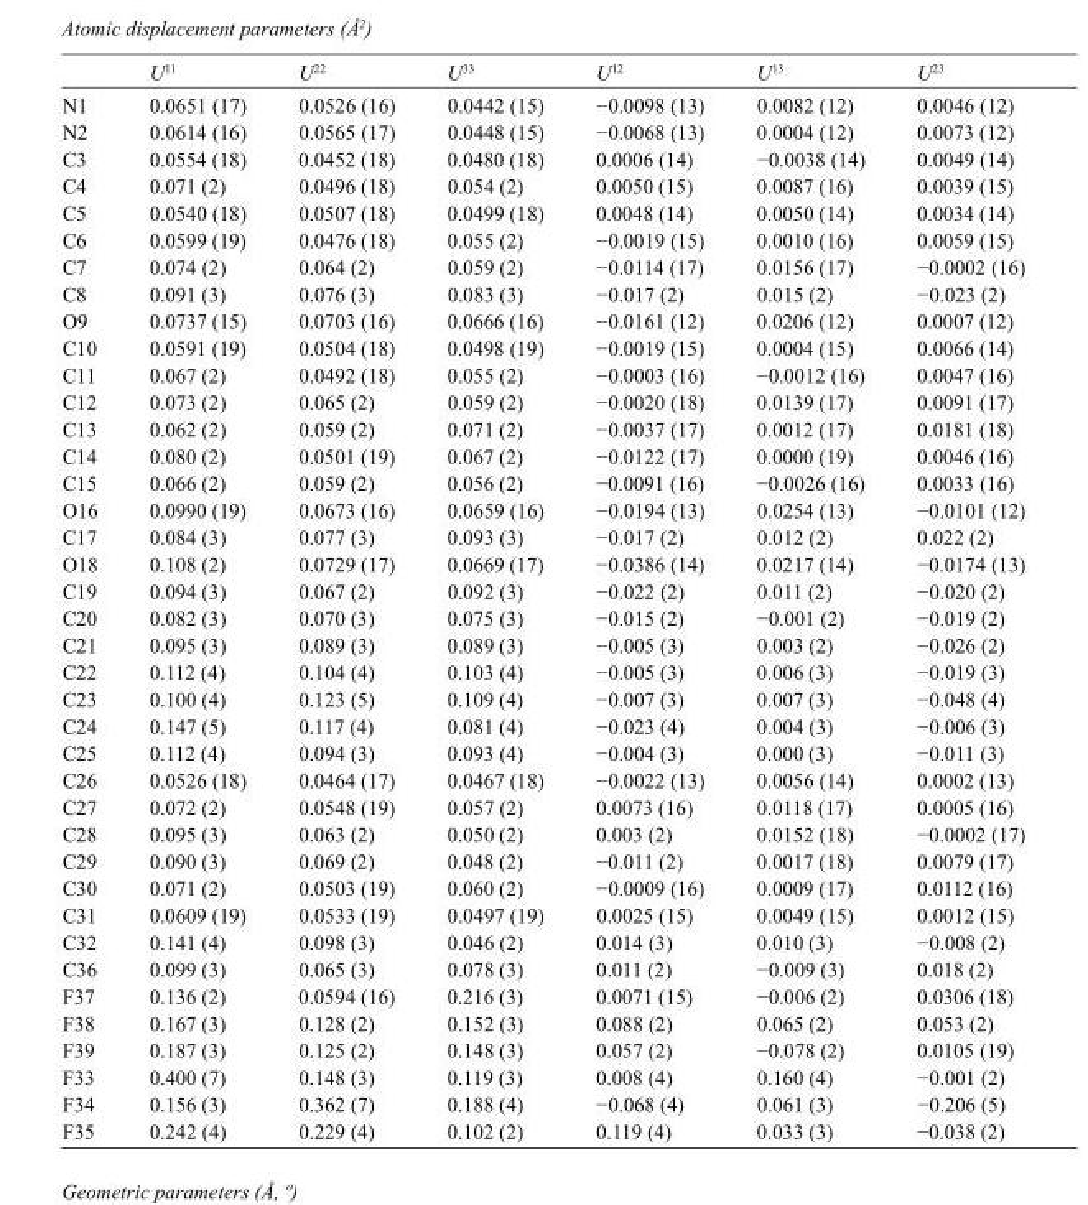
<table><thead><tr><td></td><td>U<sup>11</sup></td><td>U<sup>22</sup></td><td>U<sup>33</sup></td><td>U<sup>12</sup></td><td>U<sup>13</sup></td><td>U<sup>23</sup></td></tr></thead><tbody><tr><td>N1</td><td>0.0651 (17)</td><td>0.0526 (16)</td><td>0.0442 (15)</td><td>−0.0098 (13)</td><td>0.0082 (12)</td><td>0.0046 (12)</td></tr><tr><td>N2</td><td>0.0614 (16)</td><td>0.0565 (17)</td><td>0.0448 (15)</td><td>−0.0068 (13)</td><td>0.0004 (12)</td><td>0.0073 (12)</td></tr><tr><td>C3</td><td>0.0554 (18)</td><td>0.0452 (18)</td><td>0.0480 (18)</td><td>0.0006 (14)</td><td>−0.0038 (14)</td><td>0.0049 (14)</td></tr><tr><td>C4</td><td>0.071 (2)</td><td>0.0496 (18)</td><td>0.054 (2)</td><td>0.0050 (15)</td><td>0.0087 (16)</td><td>0.0039 (15)</td></tr><tr><td>C5</td><td>0.0540 (18)</td><td>0.0507 (18)</td><td>0.0499 (18)</td><td>0.0048 (14)</td><td>0.0050 (14)</td><td>0.0034 (14)</td></tr><tr><td>C6</td><td>0.0599 (19)</td><td>0.0476 (18)</td><td>0.055 (2)</td><td>−0.0019 (15)</td><td>0.0010 (16)</td><td>0.0059 (15)</td></tr><tr><td>C7</td><td>0.074 (2)</td><td>0.064 (2)</td><td>0.059 (2)</td><td>−0.0114 (17)</td><td>0.0156 (17)</td><td>−0.0002 (16)</td></tr><tr><td>C8</td><td>0.091 (3)</td><td>0.076 (3)</td><td>0.083 (3)</td><td>−0.017 (2)</td><td>0.015 (2)</td><td>−0.023 (2)</td></tr><tr><td>O9</td><td>0.0737 (15)</td><td>0.0703 (16)</td><td>0.0666 (16)</td><td>−0.0161 (12)</td><td>0.0206 (12)</td><td>0.0007 (12)</td></tr><tr><td>C10</td><td>0.0591 (19)</td><td>0.0504 (18)</td><td>0.0498 (19)</td><td>−0.0019 (15)</td><td>0.0004 (15)</td><td>0.0066 (14)</td></tr><tr><td>C11</td><td>0.067 (2)</td><td>0.0492 (18)</td><td>0.055 (2)</td><td>−0.0003 (16)</td><td>−0.0012 (16)</td><td>0.0047 (16)</td></tr><tr><td>C12</td><td>0.073 (2)</td><td>0.065 (2)</td><td>0.059 (2)</td><td>−0.0020 (18)</td><td>0.0139 (17)</td><td>0.0091 (17)</td></tr><tr><td>C13</td><td>0.062 (2)</td><td>0.059 (2)</td><td>0.071 (2)</td><td>−0.0037 (17)</td><td>0.0012 (17)</td><td>0.0181 (18)</td></tr><tr><td>C14</td><td>0.080 (2)</td><td>0.0501 (19)</td><td>0.067 (2)</td><td>−0.0122 (17)</td><td>0.0000 (19)</td><td>0.0046 (16)</td></tr><tr><td>C15</td><td>0.066 (2)</td><td>0.059 (2)</td><td>0.056 (2)</td><td>−0.0091 (16)</td><td>−0.0026 (16)</td><td>0.0033 (16)</td></tr><tr><td>O16</td><td>0.0990 (19)</td><td>0.0673 (16)</td><td>0.0659 (16)</td><td>−0.0194 (13)</td><td>0.0254 (13)</td><td>−0.0101 (12)</td></tr><tr><td>C17</td><td>0.084 (3)</td><td>0.077 (3)</td><td>0.093 (3)</td><td>−0.017 (2)</td><td>0.012 (2)</td><td>0.022 (2)</td></tr><tr><td>O18</td><td>0.108 (2)</td><td>0.0729 (17)</td><td>0.0669 (17)</td><td>−0.0386 (14)</td><td>0.0217 (14)</td><td>−0.0174 (13)</td></tr><tr><td>C19</td><td>0.094 (3)</td><td>0.067 (2)</td><td>0.092 (3)</td><td>−0.022 (2)</td><td>0.011 (2)</td><td>−0.020 (2)</td></tr><tr><td>C20</td><td>0.082 (3)</td><td>0.070 (3)</td><td>0.075 (3)</td><td>−0.015 (2)</td><td>−0.001 (2)</td><td>−0.019 (2)</td></tr><tr><td>C21</td><td>0.095 (3)</td><td>0.089 (3)</td><td>0.089 (3)</td><td>−0.005 (3)</td><td>0.003 (2)</td><td>−0.026 (2)</td></tr><tr><td>C22</td><td>0.112 (4)</td><td>0.104 (4)</td><td>0.103 (4)</td><td>−0.005 (3)</td><td>0.006 (3)</td><td>−0.019 (3)</td></tr><tr><td>C23</td><td>0.100 (4)</td><td>0.123 (5)</td><td>0.109 (4)</td><td>−0.007 (3)</td><td>0.007 (3)</td><td>−0.048 (4)</td></tr><tr><td>C24</td><td>0.147 (5)</td><td>0.117 (4)</td><td>0.081 (4)</td><td>−0.023 (4)</td><td>0.004 (3)</td><td>−0.006 (3)</td></tr><tr><td>C25</td><td>0.112 (4)</td><td>0.094 (3)</td><td>0.093 (4)</td><td>−0.004 (3)</td><td>0.000 (3)</td><td>−0.011 (3)</td></tr><tr><td>C26</td><td>0.0526 (18)</td><td>0.0464 (17)</td><td>0.0467 (18)</td><td>−0.0022 (13)</td><td>0.0056 (14)</td><td>0.0002 (13)</td></tr><tr><td>C27</td><td>0.072 (2)</td><td>0.0548 (19)</td><td>0.057 (2)</td><td>0.0073 (16)</td><td>0.0118 (17)</td><td>0.0005 (16)</td></tr><tr><td>C28</td><td>0.095 (3)</td><td>0.063 (2)</td><td>0.050 (2)</td><td>0.003 (2)</td><td>0.0152 (18)</td><td>−0.0002 (17)</td></tr><tr><td>C29</td><td>0.090 (3)</td><td>0.069 (2)</td><td>0.048 (2)</td><td>−0.011 (2)</td><td>0.0017 (18)</td><td>0.0079 (17)</td></tr><tr><td>C30</td><td>0.071 (2)</td><td>0.0503 (19)</td><td>0.060 (2)</td><td>−0.0009 (16)</td><td>0.0009 (17)</td><td>0.0112 (16)</td></tr><tr><td>C31</td><td>0.0609 (19)</td><td>0.0533 (19)</td><td>0.0497 (19)</td><td>0.0025 (15)</td><td>0.0049 (15)</td><td>0.0012 (15)</td></tr><tr><td>C32</td><td>0.141 (4)</td><td>0.098 (3)</td><td>0.046 (2)</td><td>0.014 (3)</td><td>0.010 (3)</td><td>−0.008 (2)</td></tr><tr><td>C36</td><td>0.099 (3)</td><td>0.065 (3)</td><td>0.078 (3)</td><td>0.011 (2)</td><td>−0.009 (3)</td><td>0.018 (2)</td></tr><tr><td>F37</td><td>0.136 (2)</td><td>0.0594 (16)</td><td>0.216 (3)</td><td>0.0071 (15)</td><td>−0.006 (2)</td><td>0.0306 (18)</td></tr><tr><td>F38</td><td>0.167 (3)</td><td>0.128 (2)</td><td>0.152 (3)</td><td>0.088 (2)</td><td>0.065 (2)</td><td>0.053 (2)</td></tr><tr><td>F39</td><td>0.187 (3)</td><td>0.125 (2)</td><td>0.148 (3)</td><td>0.057 (2)</td><td>−0.078 (2)</td><td>0.0105 (19)</td></tr><tr><td>F33</td><td>0.400 (7)</td><td>0.148 (3)</td><td>0.119 (3)</td><td>0.008 (4)</td><td>0.160 (4)</td><td>−0.001 (2)</td></tr><tr><td>F34</td><td>0.156 (3)</td><td>0.362 (7)</td><td>0.188 (4)</td><td>−0.068 (4)</td><td>0.061 (3)</td><td>−0.206 (5)</td></tr><tr><td>F35</td><td>0.242 (4)</td><td>0.229 (4)</td><td>0.102 (2)</td><td>0.119 (4)</td><td>0.033 (3)</td><td>−0.038 (2)</td></tr></tbody></table>